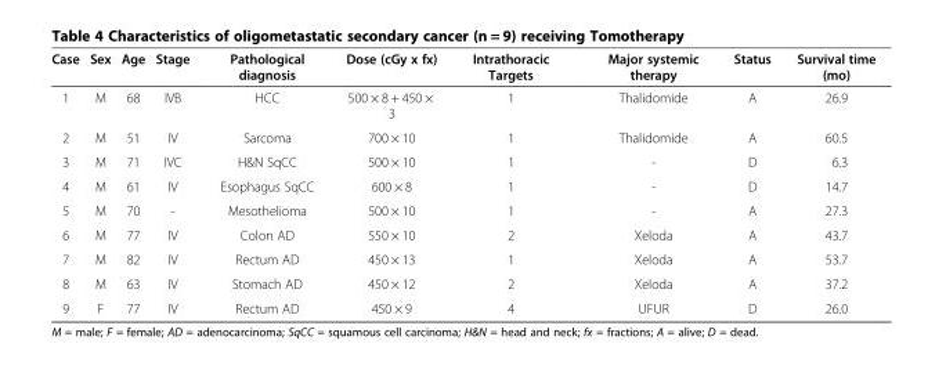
<table><thead><tr><td>Case</td><td>Sex</td><td>Age</td><td>Stage</td><td>Pathological diagnosis</td><td>Dose (cGy x fx)</td><td>Intrathoracic Targets</td><td>Major systemic therapy</td><td>Status</td><td>Survival time (mo)</td></tr></thead><tbody><tr><td>1</td><td>M</td><td>68</td><td>IVB</td><td>HCC</td><td>500 × 8 + 450 × 3</td><td>1</td><td>Thalidomide</td><td>A</td><td>26.9</td></tr><tr><td>2</td><td>M</td><td>51</td><td>IV</td><td>Sarcoma</td><td>700 × 10</td><td>1</td><td>Thalidomide</td><td>A</td><td>60.5</td></tr><tr><td>3</td><td>M</td><td>71</td><td>IVC</td><td>H&amp;N SqCC</td><td>500 × 10</td><td>1</td><td>-</td><td>D</td><td>6.3</td></tr><tr><td>4</td><td>M</td><td>61</td><td>IV</td><td>Esophagus SqCC</td><td>600 × 8</td><td>1</td><td>-</td><td>D</td><td>14.7</td></tr><tr><td>5</td><td>M</td><td>70</td><td>-</td><td>Mesothelioma</td><td>500 × 10</td><td>1</td><td>-</td><td>A</td><td>27.3</td></tr><tr><td>6</td><td>M</td><td>77</td><td>IV</td><td>Colon AD</td><td>550 × 10</td><td>2</td><td>Xeloda</td><td>A</td><td>43.7</td></tr><tr><td>7</td><td>M</td><td>82</td><td>IV</td><td>Rectum AD</td><td>450 × 13</td><td>1</td><td>Xeloda</td><td>A</td><td>53.7</td></tr><tr><td>8</td><td>M</td><td>63</td><td>IV</td><td>Stomach AD</td><td>450 × 12</td><td>2</td><td>Xeloda</td><td>A</td><td>37.2</td></tr><tr><td>9</td><td>F</td><td>77</td><td>IV</td><td>Rectum AD</td><td>450 × 9</td><td>4</td><td>UFUR</td><td>D</td><td>26.0</td></tr></tbody></table>